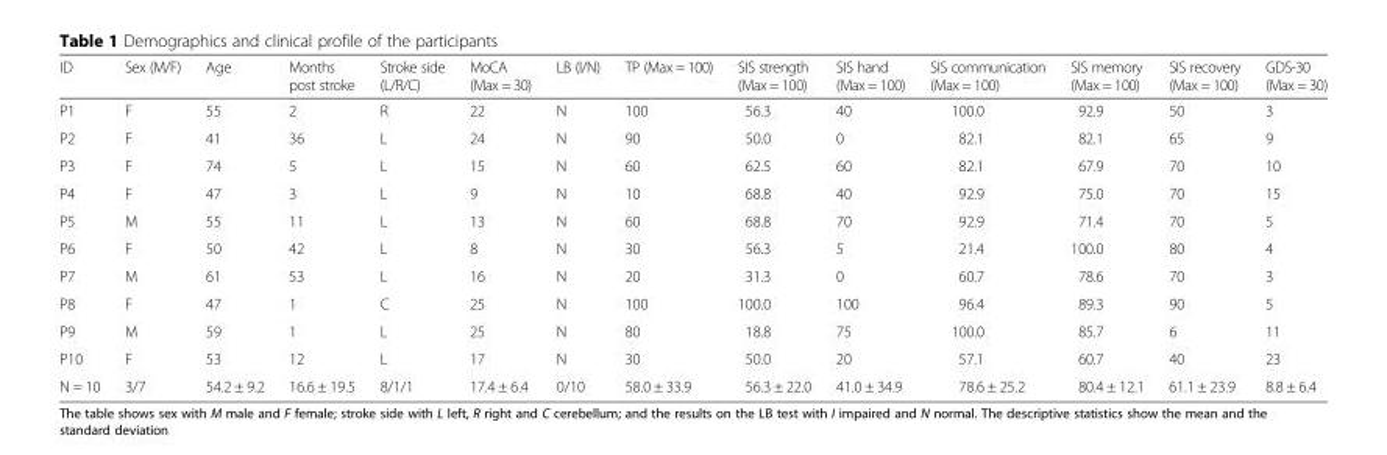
<table><thead><tr><td>ID</td><td>Sex (M/F)</td><td>Age</td><td>Months post stroke</td><td>Stroke side (L/R/C)</td><td>MoCA (Max = 30)</td><td>LB (I/N)</td><td>TP (Max = 100)</td><td>SIS strength (Max = 100)</td><td>SIS hand (Max = 100)</td><td>SIS communication (Max = 100)</td><td>SIS memory (Max = 100)</td><td>SIS recovery (Max = 100)</td><td>GDS-30 (Max = 30)</td></tr></thead><tbody><tr><td>P1</td><td>F</td><td>55</td><td>2</td><td>R</td><td>22</td><td>N</td><td>100</td><td>56.3</td><td>40</td><td>100.0</td><td>92.9</td><td>50</td><td>3</td></tr><tr><td>P2</td><td>F</td><td>41</td><td>36</td><td>L</td><td>24</td><td>N</td><td>90</td><td>50.0</td><td>0</td><td>82.1</td><td>82.1</td><td>65</td><td>9</td></tr><tr><td>P3</td><td>F</td><td>74</td><td>5</td><td>L</td><td>15</td><td>N</td><td>60</td><td>62.5</td><td>60</td><td>82.1</td><td>67.9</td><td>70</td><td>10</td></tr><tr><td>P4</td><td>F</td><td>47</td><td>3</td><td>L</td><td>9</td><td>N</td><td>10</td><td>68.8</td><td>40</td><td>92.9</td><td>75.0</td><td>70</td><td>15</td></tr><tr><td>P5</td><td>M</td><td>55</td><td>11</td><td>L</td><td>13</td><td>N</td><td>60</td><td>68.8</td><td>70</td><td>92.9</td><td>71.4</td><td>70</td><td>5</td></tr><tr><td>P6</td><td>F</td><td>50</td><td>42</td><td>L</td><td>8</td><td>N</td><td>30</td><td>56.3</td><td>5</td><td>21.4</td><td>100.0</td><td>80</td><td>4</td></tr><tr><td>P7</td><td>M</td><td>61</td><td>53</td><td>L</td><td>16</td><td>N</td><td>20</td><td>31.3</td><td>0</td><td>60.7</td><td>78.6</td><td>70</td><td>3</td></tr><tr><td>P8</td><td>F</td><td>47</td><td>1</td><td>C</td><td>25</td><td>N</td><td>100</td><td>100.0</td><td>100</td><td>96.4</td><td>89.3</td><td>90</td><td>5</td></tr><tr><td>P9</td><td>M</td><td>59</td><td>1</td><td>L</td><td>25</td><td>N</td><td>80</td><td>18.8</td><td>75</td><td>100.0</td><td>85.7</td><td>6</td><td>11</td></tr><tr><td>P10</td><td>F</td><td>53</td><td>12</td><td>L</td><td>17</td><td>N</td><td>30</td><td>50.0</td><td>20</td><td>57.1</td><td>60.7</td><td>40</td><td>23</td></tr><tr><td>N = 10</td><td>3/7</td><td>54.2 ± 9.2</td><td>16.6 ± 19.5</td><td>8/1/1</td><td>17.4 ± 6.4</td><td>0/10</td><td>58.0 ± 33.9</td><td>56.3 ± 22.0</td><td>41.0 ± 34.9</td><td>78.6 ± 25.2</td><td>80.4 ± 12.1</td><td>61.1 ± 23.9</td><td>8.8 ± 6.4</td></tr></tbody></table>